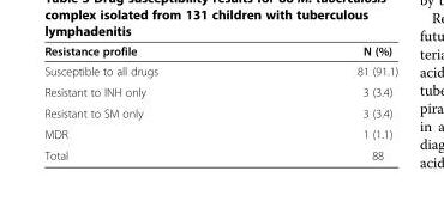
<table><thead><tr><td>Resistance profile</td><td>N (%)</td></tr></thead><tbody><tr><td>Susceptible to all drugs</td><td>81 (91.1)</td></tr><tr><td>Resistant to INH only</td><td>3 (3.4)</td></tr><tr><td>Resistant to SM only</td><td>3 (3.4)</td></tr><tr><td>MDR</td><td>1 (1.1)</td></tr><tr><td>Total</td><td>88</td></tr></tbody></table>